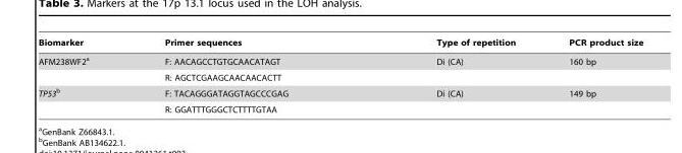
<table><thead><tr><td>Biomarker</td><td>Primer sequences</td><td>Type of repetition</td><td>PCR product size</td></tr></thead><tbody><tr><td rowspan="2">AFM238WF2<sup>a</sup></td><td>F: AACAGCCTGTGCAACATAGT</td><td>Di (CA)</td><td>160 bp</td></tr><tr><td>R: AGCTCGAAGCAACAACACTT</td><td></td><td></td></tr><tr><td rowspan="2">TP53b</td><td>F: TACAGGGATAGGTAGCCCGAG</td><td>Di (CA)</td><td>149 bp</td></tr><tr><td>R: GGATTTGGGCTCTTTTGTAA</td><td></td><td></td></tr></tbody></table>